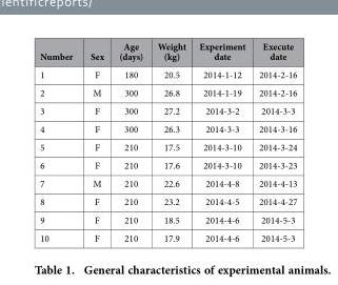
<table><thead><tr><td>Number</td><td>Sex</td><td>Age (days)</td><td>Weight (kg)</td><td>Experiment date</td><td>Execute date</td></tr></thead><tbody><tr><td>1</td><td>F</td><td>180</td><td>20.5</td><td>2014-1-12</td><td>2014-2-16</td></tr><tr><td>2</td><td>M</td><td>300</td><td>26.8</td><td>2014-1-19</td><td>2014-2-16</td></tr><tr><td>3</td><td>F</td><td>300</td><td>27.2</td><td>2014-3-2</td><td>2014-3-3</td></tr><tr><td>4</td><td>F</td><td>300</td><td>26.3</td><td>2014-3-3</td><td>2014-3-16</td></tr><tr><td>5</td><td>F</td><td>210</td><td>17.5</td><td>2014-3-10</td><td>2014-3-24</td></tr><tr><td>6</td><td>F</td><td>210</td><td>17.6</td><td>2014-3-10</td><td>2014-3-23</td></tr><tr><td>7</td><td>M</td><td>210</td><td>22.6</td><td>2014-4-8</td><td>2014-4-13</td></tr><tr><td>8</td><td>F</td><td>210</td><td>23.2</td><td>2014-4-5</td><td>2014-4-27</td></tr><tr><td>9</td><td>F</td><td>210</td><td>18.5</td><td>2014-4-6</td><td>2014-5-3</td></tr><tr><td>10</td><td>F</td><td>210</td><td>17.9</td><td>2014-4-6</td><td>2014-5-3</td></tr></tbody></table>